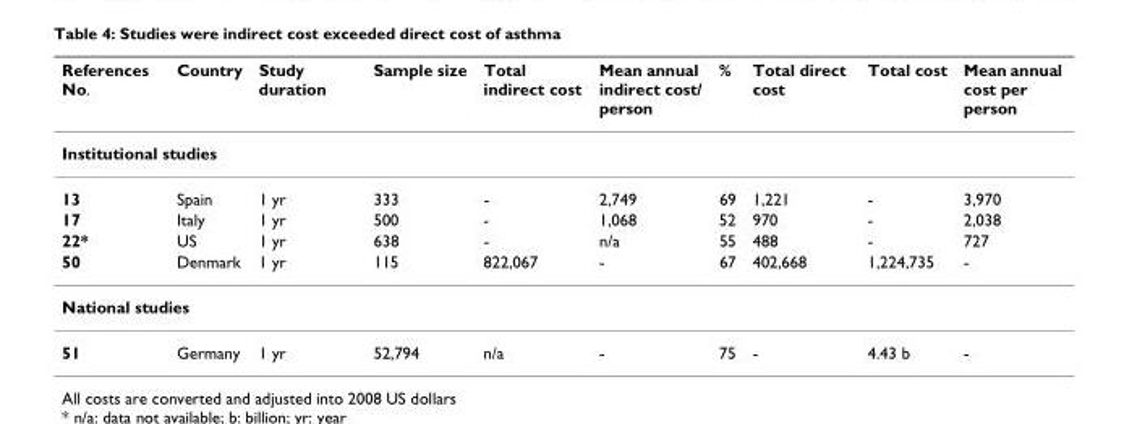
<table><thead><tr><td>References No.</td><td>Country</td><td>Study duration</td><td>Sample size</td><td>Total indirect cost</td><td>Mean annual indirect cost/ person</td><td>%</td><td>Total direct cost</td><td>Total cost</td><td>Mean annual cost per person</td></tr></thead><tbody><tr><td colspan="10">Institutional studies</td></tr><tr><td>13</td><td>Spain</td><td>1 yr</td><td>333</td><td>-</td><td>2,749</td><td>69</td><td>1,221</td><td>-</td><td>3,970</td></tr><tr><td>17</td><td>Italy</td><td>1 yr</td><td>500</td><td>-</td><td>1,068</td><td>52</td><td>970</td><td>-</td><td>2,038</td></tr><tr><td>22*</td><td>US</td><td>1 yr</td><td>638</td><td>-</td><td>n/a</td><td>55</td><td>488</td><td>-</td><td>727</td></tr><tr><td>50</td><td>Denmark</td><td>1 yr</td><td>115</td><td>822,067</td><td>-</td><td>67</td><td>402,668</td><td>1,224,735</td><td>-</td></tr><tr><td colspan="10">National studies</td></tr><tr><td>51</td><td>Germany</td><td>1 yr</td><td>52,794</td><td>n/a</td><td>-</td><td>75</td><td>-</td><td>4.43 b</td><td>-</td></tr></tbody></table>